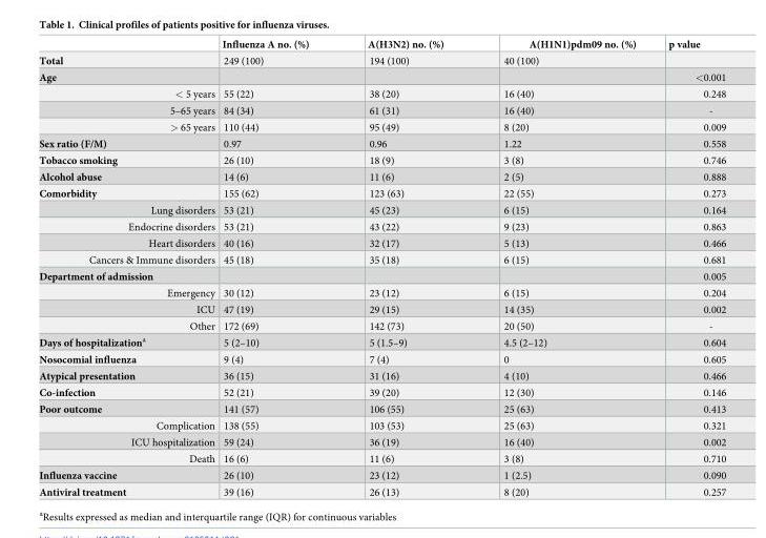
<table><thead><tr><td></td><td>Influenza A no. (%)</td><td>A(H3N2) no. (%)</td><td>A(H1N1)pdm09 no. (%)</td><td>p value</td></tr></thead><tbody><tr><td>Total</td><td>249 (100)</td><td>194 (100)</td><td>40 (100)</td><td></td></tr><tr><td>Age</td><td></td><td></td><td></td><td>&lt;0.001</td></tr><tr><td>&lt; 5 years</td><td>55 (22)</td><td>38 (20)</td><td>16 (40)</td><td>0.248</td></tr><tr><td>5–65 years</td><td>84 (34)</td><td>61 (31)</td><td>16 (40)</td><td>-</td></tr><tr><td>&gt; 65 years</td><td>110 (44)</td><td>95 (49)</td><td>8 (20)</td><td>0.009</td></tr><tr><td>Sex ratio (F/M)</td><td>0.97</td><td>0.96</td><td>1.22</td><td>0.558</td></tr><tr><td>Tobacco smoking</td><td>26 (10)</td><td>18 (9)</td><td>3 (8)</td><td>0.746</td></tr><tr><td>Alcohol abuse</td><td>14 (6)</td><td>11 (6)</td><td>2 (5)</td><td>0.888</td></tr><tr><td>Comorbidity</td><td>155 (62)</td><td>123 (63)</td><td>22 (55)</td><td>0.273</td></tr><tr><td>Lung disorders</td><td>53 (21)</td><td>45 (23)</td><td>6 (15)</td><td>0.164</td></tr><tr><td>Endocrine disorders</td><td>53 (21)</td><td>43 (22)</td><td>9 (23)</td><td>0.863</td></tr><tr><td>Heart disorders</td><td>40 (16)</td><td>32 (17)</td><td>5 (13)</td><td>0.466</td></tr><tr><td>Cancers &amp; Immune disorders</td><td>45 (18)</td><td>35 (18)</td><td>6 (15)</td><td>0.681</td></tr><tr><td>Department of admission</td><td></td><td></td><td></td><td>0.005</td></tr><tr><td>Emergency</td><td>30 (12)</td><td>23 (12)</td><td>6 (15)</td><td>0.204</td></tr><tr><td>ICU</td><td>47 (19)</td><td>29 (15)</td><td>14 (35)</td><td>0.002</td></tr><tr><td>Other</td><td>172 (69)</td><td>142 (73)</td><td>20 (50)</td><td>-</td></tr><tr><td>Days of hospitalization<sup>a</sup></td><td>5 (2–10)</td><td>5 (1.5–9)</td><td>4.5 (2–12)</td><td>0.604</td></tr><tr><td>Nosocomial influenza</td><td>9 (4)</td><td>7 (4)</td><td>0</td><td>0.605</td></tr><tr><td>Atypical presentation</td><td>36 (15)</td><td>31 (16)</td><td>4 (10)</td><td>0.466</td></tr><tr><td>Co-infection</td><td>52 (21)</td><td>39 (20)</td><td>12 (30)</td><td>0.146</td></tr><tr><td>Poor outcome</td><td>141 (57)</td><td>106 (55)</td><td>25 (63)</td><td>0.413</td></tr><tr><td>Complication</td><td>138 (55)</td><td>103 (53)</td><td>25 (63)</td><td>0.321</td></tr><tr><td>ICU hospitalization</td><td>59 (24)</td><td>36 (19)</td><td>16 (40)</td><td>0.002</td></tr><tr><td>Death</td><td>16 (6)</td><td>11 (6)</td><td>3 (8)</td><td>0.710</td></tr><tr><td>Influenza vaccine</td><td>26 (10)</td><td>23 (12)</td><td>1 (2.5)</td><td>0.090</td></tr><tr><td>Antiviral treatment</td><td>39 (16)</td><td>26 (13)</td><td>8 (20)</td><td>0.257</td></tr></tbody></table>